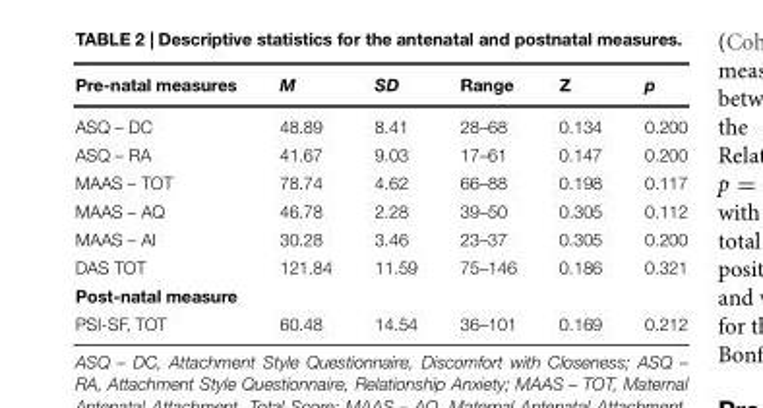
<table><thead><tr><td>Pre-natal measures</td><td>M</td><td>SD</td><td>Range</td><td>Z</td><td>p</td></tr></thead><tbody><tr><td>ASQ – DC</td><td>48.89</td><td>8.41</td><td>28–68</td><td>0.134</td><td>0.200</td></tr><tr><td>ASQ – RA</td><td>41.67</td><td>9.03</td><td>17–61</td><td>0.147</td><td>0.200</td></tr><tr><td>MAAS – TOT</td><td>78.74</td><td>4.62</td><td>66–88</td><td>0.198</td><td>0.117</td></tr><tr><td>MAAS – AQ</td><td>46.78</td><td>2.28</td><td>39–50</td><td>0.305</td><td>0.112</td></tr><tr><td>MAAS – AI</td><td>30.28</td><td>3.46</td><td>23–37</td><td>0.305</td><td>0.200</td></tr><tr><td>DAS TOT</td><td>121.84</td><td>11.59</td><td>75–146</td><td>0.186</td><td>0.321</td></tr><tr><td colspan="6">Post-natal measure</td></tr><tr><td>PSI-SF, TOT</td><td>60.48</td><td>14.54</td><td>36–101</td><td>0.169</td><td>0.212</td></tr></tbody></table>